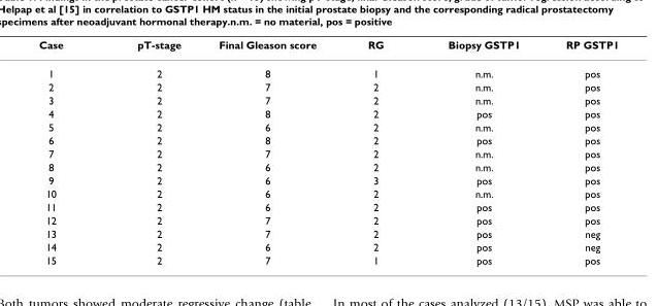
<table><thead><tr><td>Case</td><td>pT-stage</td><td>Final Gleason score</td><td>RG</td><td>Biopsy GSTP1</td><td>RP GSTP1</td></tr></thead><tbody><tr><td>1</td><td>2</td><td>8</td><td>1</td><td>n.m.</td><td>pos</td></tr><tr><td>2</td><td>2</td><td>7</td><td>2</td><td>n.m.</td><td>pos</td></tr><tr><td>3</td><td>2</td><td>7</td><td>2</td><td>n.m.</td><td>pos</td></tr><tr><td>4</td><td>2</td><td>8</td><td>2</td><td>pos</td><td>pos</td></tr><tr><td>5</td><td>2</td><td>6</td><td>2</td><td>n.m.</td><td>pos</td></tr><tr><td>6</td><td>2</td><td>8</td><td>2</td><td>pos</td><td>pos</td></tr><tr><td>7</td><td>2</td><td>7</td><td>2</td><td>n.m.</td><td>pos</td></tr><tr><td>8</td><td>2</td><td>6</td><td>2</td><td>n.m.</td><td>pos</td></tr><tr><td>9</td><td>2</td><td>6</td><td>3</td><td>pos</td><td>pos</td></tr><tr><td>10</td><td>2</td><td>6</td><td>2</td><td>n.m.</td><td>pos</td></tr><tr><td>11</td><td>2</td><td>6</td><td>2</td><td>pos</td><td>pos</td></tr><tr><td>12</td><td>2</td><td>7</td><td>2</td><td>pos</td><td>pos</td></tr><tr><td>13</td><td>2</td><td>7</td><td>2</td><td>pos</td><td>neg</td></tr><tr><td>14</td><td>2</td><td>6</td><td>2</td><td>pos</td><td>neg</td></tr><tr><td>15</td><td>2</td><td>7</td><td>1</td><td>pos</td><td>pos</td></tr></tbody></table>